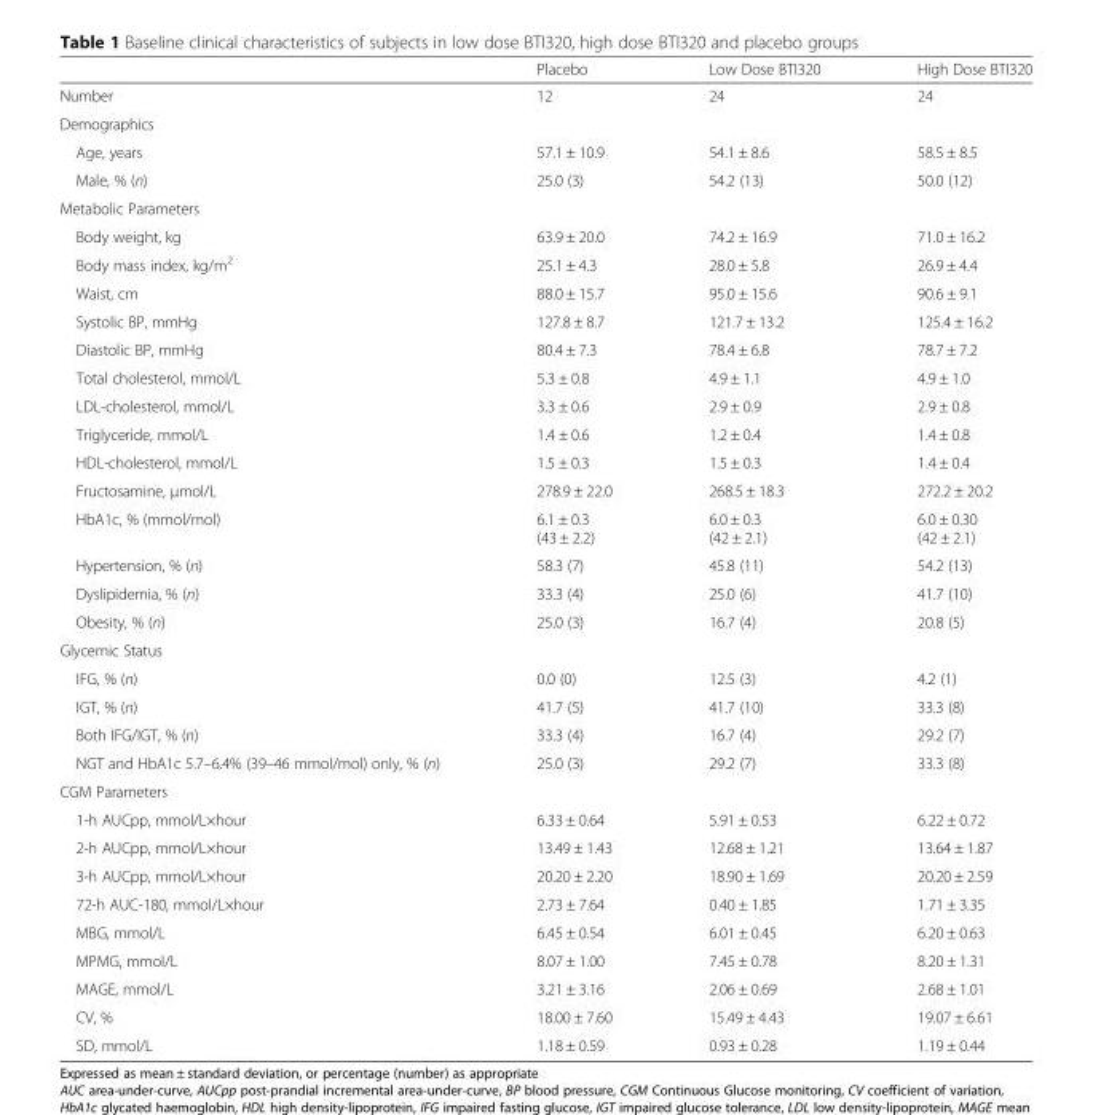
<table><thead><tr><td></td><td>Placebo</td><td>Low Dose BTI320</td><td>High Dose BTI320</td></tr></thead><tbody><tr><td>Number</td><td>12</td><td>24</td><td>24</td></tr><tr><td colspan="4">Demographics</td></tr><tr><td>Age, years</td><td>57.1 ± 10.9</td><td>54.1 ± 8.6</td><td>58.5 ± 8.5</td></tr><tr><td>Male, % (n)</td><td>25.0 (3)</td><td>54.2 (13)</td><td>50.0 (12)</td></tr><tr><td colspan="4">Metabolic Parameters</td></tr><tr><td>Body weight, kg</td><td>63.9 ± 20.0</td><td>74.2 ± 16.9</td><td>71.0 ± 16.2</td></tr><tr><td>Body mass index, kg/m<sup>2</sup></td><td>25.1 ± 4.3</td><td>28.0 ± 5.8</td><td>26.9 ± 4.4</td></tr><tr><td>Waist, cm</td><td>88.0 ± 15.7</td><td>95.0 ± 15.6</td><td>90.6 ± 9.1</td></tr><tr><td>Systolic BP, mmHg</td><td>127.8 ± 8.7</td><td>121.7 ± 13.2</td><td>125.4 ± 16.2</td></tr><tr><td>Diastolic BP, mmHg</td><td>80.4 ± 7.3</td><td>78.4 ± 6.8</td><td>78.7 ± 7.2</td></tr><tr><td>Total cholesterol, mmol/L</td><td>5.3 ± 0.8</td><td>4.9 ± 1.1</td><td>4.9 ± 1.0</td></tr><tr><td>LDL-cholesterol, mmol/L</td><td>3.3 ± 0.6</td><td>2.9 ± 0.9</td><td>2.9 ± 0.8</td></tr><tr><td>Triglyceride, mmol/L</td><td>1.4 ± 0.6</td><td>1.2 ± 0.4</td><td>1.4 ± 0.8</td></tr><tr><td>HDL-cholesterol, mmol/L</td><td>1.5 ± 0.3</td><td>1.5 ± 0.3</td><td>1.4 ± 0.4</td></tr><tr><td>Fructosamine, μmol/L</td><td>278.9 ± 22.0</td><td>268.5 ± 18.3</td><td>272.2 ± 20.2</td></tr><tr><td>HbA1c, % (mmol/mol)</td><td>6.1 ± 0.3 (43 ± 2.2)</td><td>6.0 ± 0.3 (42 ± 2.1)</td><td>6.0 ± 0.30 (42 ± 2.1)</td></tr><tr><td>Hypertension, % (n)</td><td>58.3 (7)</td><td>45.8 (11)</td><td>54.2 (13)</td></tr><tr><td>Dyslipidemia, % (n)</td><td>33.3 (4)</td><td>25.0 (6)</td><td>41.7 (10)</td></tr><tr><td>Obesity, % (n)</td><td>25.0 (3)</td><td>16.7 (4)</td><td>20.8 (5)</td></tr><tr><td colspan="4">Glycemic Status</td></tr><tr><td>IFG, % (n)</td><td>0.0 (0)</td><td>12.5 (3)</td><td>4.2 (1)</td></tr><tr><td>IGT, % (n)</td><td>41.7 (5)</td><td>41.7 (10)</td><td>33.3 (8)</td></tr><tr><td>Both IFG/IGT, % (n)</td><td>33.3 (4)</td><td>16.7 (4)</td><td>29.2 (7)</td></tr><tr><td>NGT and HbA1c 5.7–6.4% (39–46 mmol/mol) only, % (n)</td><td>25.0 (3)</td><td>29.2 (7)</td><td>33.3 (8)</td></tr><tr><td colspan="4">CGM Parameters</td></tr><tr><td>1-h AUCpp, mmol/L×hour</td><td>6.33 ± 0.64</td><td>5.91 ± 0.53</td><td>6.22 ± 0.72</td></tr><tr><td>2-h AUCpp, mmol/L×hour</td><td>13.49 ± 1.43</td><td>12.68 ± 1.21</td><td>13.64 ± 1.87</td></tr><tr><td>3-h AUCpp, mmol/L×hour</td><td>20.20 ± 2.20</td><td>18.90 ± 1.69</td><td>20.20 ± 2.59</td></tr><tr><td>72-h AUC-180, mmol/L×hour</td><td>2.73 ± 7.64</td><td>0.40 ± 1.85</td><td>1.71 ± 3.35</td></tr><tr><td>MBG, mmol/L</td><td>6.45 ± 0.54</td><td>6.01 ± 0.45</td><td>6.20 ± 0.63</td></tr><tr><td>MPMG, mmol/L</td><td>8.07 ± 1.00</td><td>7.45 ± 0.78</td><td>8.20 ± 1.31</td></tr><tr><td>MAGE, mmol/L</td><td>3.21 ± 3.16</td><td>2.06 ± 0.69</td><td>2.68 ± 1.01</td></tr><tr><td>CV, %</td><td>18.00 ± 7.60</td><td>15.49 ± 4.43</td><td>19.07 ± 6.61</td></tr><tr><td>SD, mmol/L</td><td>1.18 ± 0.59</td><td>0.93 ± 0.28</td><td>1.19 ± 0.44</td></tr></tbody></table>